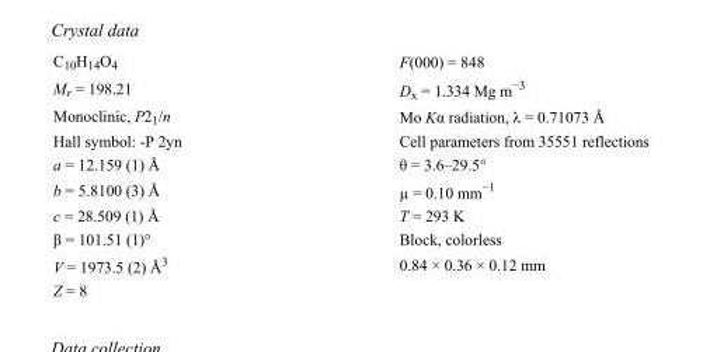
<table><tbody><tr><td>C<sub>10</sub>H<sub>14</sub>O<sub>4</sub></td><td>F(000) = 848</td></tr><tr><td>M<sub>r</sub> = 198.21</td><td>D<sub>x</sub> = 1.334 Mg m<sup>−3</sup></td></tr><tr><td>Monoclinic, P2<sub>1</sub>/n</td><td>Mo Kα radiation, λ = 0.71073 Å</td></tr><tr><td>Hall symbol: -P 2yn</td><td>Cell parameters from 35551 reflections</td></tr><tr><td>a = 12.159 (1) Å</td><td>θ = 3.6–29.5°</td></tr><tr><td>b = 5.8100 (3) Å</td><td>µ = 0.10 mm<sup>−1</sup></td></tr><tr><td>c = 28.509 (1) Å</td><td>T = 293 K</td></tr><tr><td>β = 101.51 (1)°</td><td>Block, colorless</td></tr><tr><td>V = 1973.5 (2) Å<sup>3</sup></td><td>0.84 × 0.36 × 0.12 mm</td></tr><tr><td>Z = 8</td><td></td></tr></tbody></table>